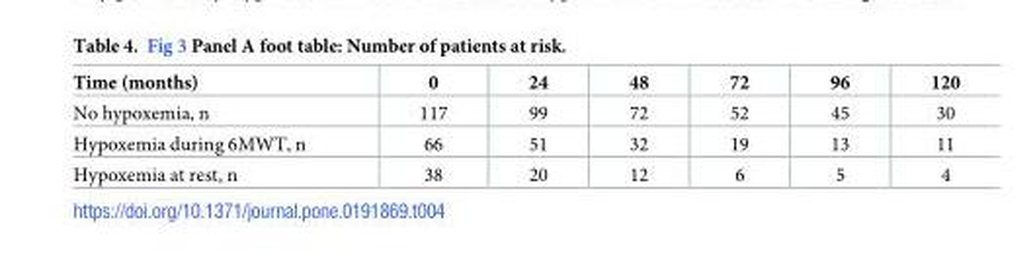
<table><thead><tr><td>Time (months)</td><td>0</td><td>24</td><td>48</td><td>72</td><td>96</td><td>120</td></tr></thead><tbody><tr><td>No hypoxemia, n</td><td>117</td><td>99</td><td>72</td><td>52</td><td>45</td><td>30</td></tr><tr><td>Hypoxemia during 6MWT, n</td><td>66</td><td>51</td><td>32</td><td>19</td><td>13</td><td>11</td></tr><tr><td>Hypoxemia at rest, n</td><td>38</td><td>20</td><td>12</td><td>6</td><td>5</td><td>4</td></tr></tbody></table>